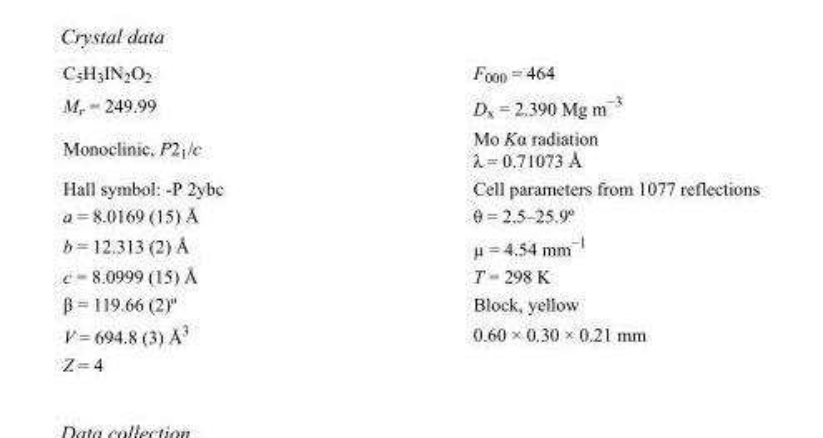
<table><tbody><tr><td>C<sub>5</sub>H<sub>3</sub>IN<sub>2</sub>O<sub>2</sub></td><td>F000 = 464</td></tr><tr><td>M<sub>r</sub> = 249.99</td><td>D<sub>x</sub> = 2.390 Mg m<sup>−3</sup></td></tr><tr><td>Monoclinic, P2<sub>1</sub>/c</td><td>Mo Kα radiation λ = 0.71073 Å</td></tr><tr><td>Hall symbol: -P 2ybc</td><td>Cell parameters from 1077 reflections</td></tr><tr><td>a = 8.0169 (15) Å</td><td>θ = 2.5–25.9º</td></tr><tr><td>b = 12.313 (2) Å</td><td>µ = 4.54 mm<sup>−1</sup></td></tr><tr><td>c = 8.0999 (15) Å</td><td>T = 298 K</td></tr><tr><td>β = 119.66 (2)º</td><td>Block, yellow</td></tr><tr><td>V = 694.8 (3) Å<sup>3</sup></td><td>0.60 × 0.30 × 0.21 mm</td></tr><tr><td>Z = 4</td><td></td></tr></tbody></table>